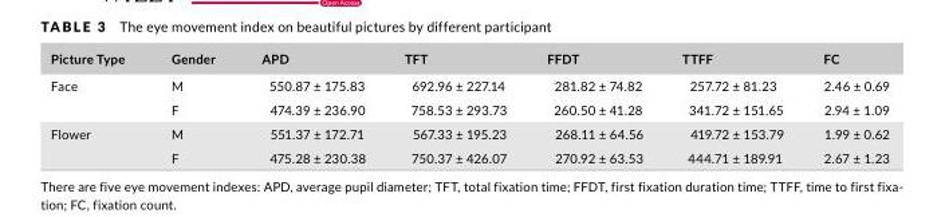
<table><thead><tr><td>Picture Type</td><td>Gender</td><td>APD</td><td>TFT</td><td>FFDT</td><td>TTFF</td><td>FC</td></tr></thead><tbody><tr><td rowspan="2">Face</td><td>M</td><td>550.87 ± 175.83</td><td>692.96 ± 227.14</td><td>281.82 ± 74.82</td><td>257.72 ± 81.23</td><td>2.46 ± 0.69</td></tr><tr><td>F</td><td>474.39 ± 236.90</td><td>758.53 ± 293.73</td><td>260.50 ± 41.28</td><td>341.72 ± 151.65</td><td>2.94 ± 1.09</td></tr><tr><td rowspan="2">Flower</td><td>M</td><td>551.37 ± 172.71</td><td>567.33 ± 195.23</td><td>268.11 ± 64.56</td><td>419.72 ± 153.79</td><td>1.99 ± 0.62</td></tr><tr><td>F</td><td>475.28 ± 230.38</td><td>750.37 ± 426.07</td><td>270.92 ± 63.53</td><td>444.71 ± 189.91</td><td>2.67 ± 1.23</td></tr></tbody></table>